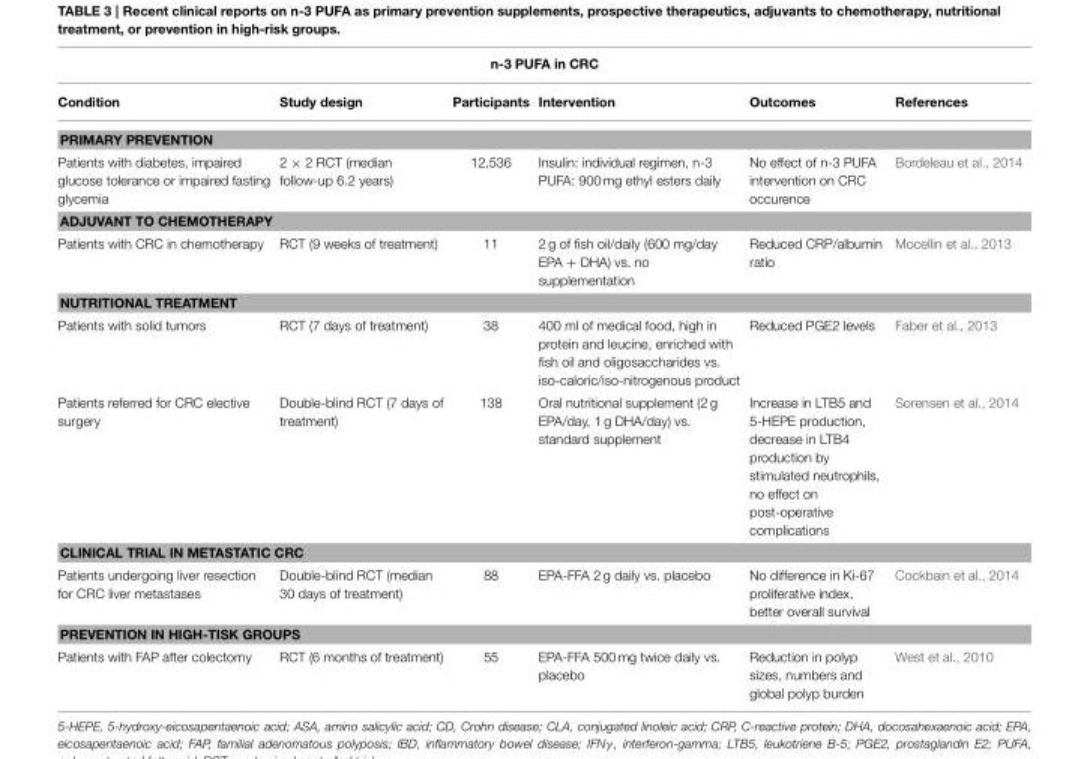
<table><thead><tr><td colspan="6">n-3 PUFA in CRC</td></tr><tr><td>Condition</td><td>Study design</td><td>Participants</td><td>Intervention</td><td>Outcomes</td><td>References</td></tr></thead><tbody><tr><td colspan="6">PRIMARY PREVENTION</td></tr><tr><td>Patients with diabetes, impaired glucose tolerance or impaired fasting glycemia</td><td>2 × 2 RCT (median follow-up 6.2 years)</td><td>12,536</td><td>Insulin: individual regimen, n-3 PUFA: 900 mg ethyl esters daily</td><td>No effect of n-3 PUFA intervention on CRC occurence</td><td>Bordeleau et al., 2014</td></tr><tr><td colspan="6">ADJUVANT TO CHEMOTHERAPY</td></tr><tr><td>Patients with CRC in chemotherapy</td><td>RCT (9 weeks of treatment)</td><td>11</td><td>2 g of fish oil/daily (600 mg/day EPA + DHA) vs. no supplementation</td><td>Reduced CRP/albumin ratio</td><td>Mocellin et al., 2013</td></tr><tr><td colspan="6">NUTRITIONAL TREATMENT</td></tr><tr><td>Patients with solid tumors</td><td>RCT (7 days of treatment)</td><td>38</td><td>400 ml of medical food, high in protein and leucine, enriched with fish oil and oligosaccharides vs. iso-caloric/iso-nitrogenous product</td><td>Reduced PGE2 levels</td><td>Faber et al., 2013</td></tr><tr><td>Patients referred for CRC elective surgery</td><td>Double-blind RCT (7 days of treatment)</td><td>138</td><td>Oral nutritional supplement (2 g EPA/day, 1 g DHA/day) vs. standard supplement</td><td>Increase in LTB5 and 5-HEPE production, decrease in LTB4 production by stimulated neutrophils, no effect on post-operative complications</td><td>Sorensen et al., 2014</td></tr><tr><td colspan="6">CLINICAL TRIAL IN METASTATIC CRC</td></tr><tr><td>Patients undergoing liver resection for CRC liver metastases</td><td>Double-blind RCT (median 30 days of treatment)</td><td>88</td><td>EPA-FFA 2 g daily vs. placebo</td><td>No difference in Ki-67 proliferative index, better overall survival</td><td>Cockbain et al., 2014</td></tr><tr><td colspan="6">PREVENTION IN HIGH-TISK GROUPS</td></tr><tr><td>Patients with FAP after colectomy</td><td>RCT (6 months of treatment)</td><td>55</td><td>EPA-FFA 500 mg twice daily vs. placebo</td><td>Reduction in polyp sizes, numbers and global polyp burden</td><td>West et al., 2010</td></tr></tbody></table>